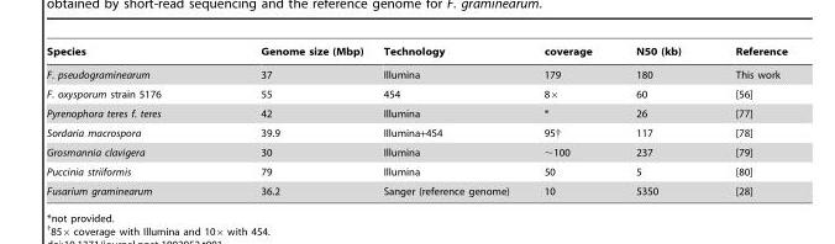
<table><thead><tr><td>Species</td><td>Genome size (Mbp)</td><td>Technology</td><td>coverage</td><td>N50 (kb)</td><td>Reference</td></tr></thead><tbody><tr><td>F. pseudograminearum</td><td>37</td><td>Illumina</td><td>179</td><td>180</td><td>This work</td></tr><tr><td>F. oxysporum strain 5176</td><td>55</td><td>454</td><td>8×</td><td>60</td><td>[56]</td></tr><tr><td>Pyrenophora teres f. teres</td><td>42</td><td>Illumina</td><td>*</td><td>26</td><td>[77]</td></tr><tr><td>Sordaria macrospora</td><td>39.9</td><td>Illumina+454</td><td>95†</td><td>117</td><td>[78]</td></tr><tr><td>Grosmannia clavigera</td><td>30</td><td>Illumina</td><td>∼100</td><td>237</td><td>[79]</td></tr><tr><td>Puccinia striiformis</td><td>79</td><td>Illumina</td><td>50</td><td>5</td><td>[80]</td></tr><tr><td>Fusarium graminearum</td><td>36.2</td><td>Sanger (reference genome)</td><td>10</td><td>5350</td><td>[28]</td></tr></tbody></table>